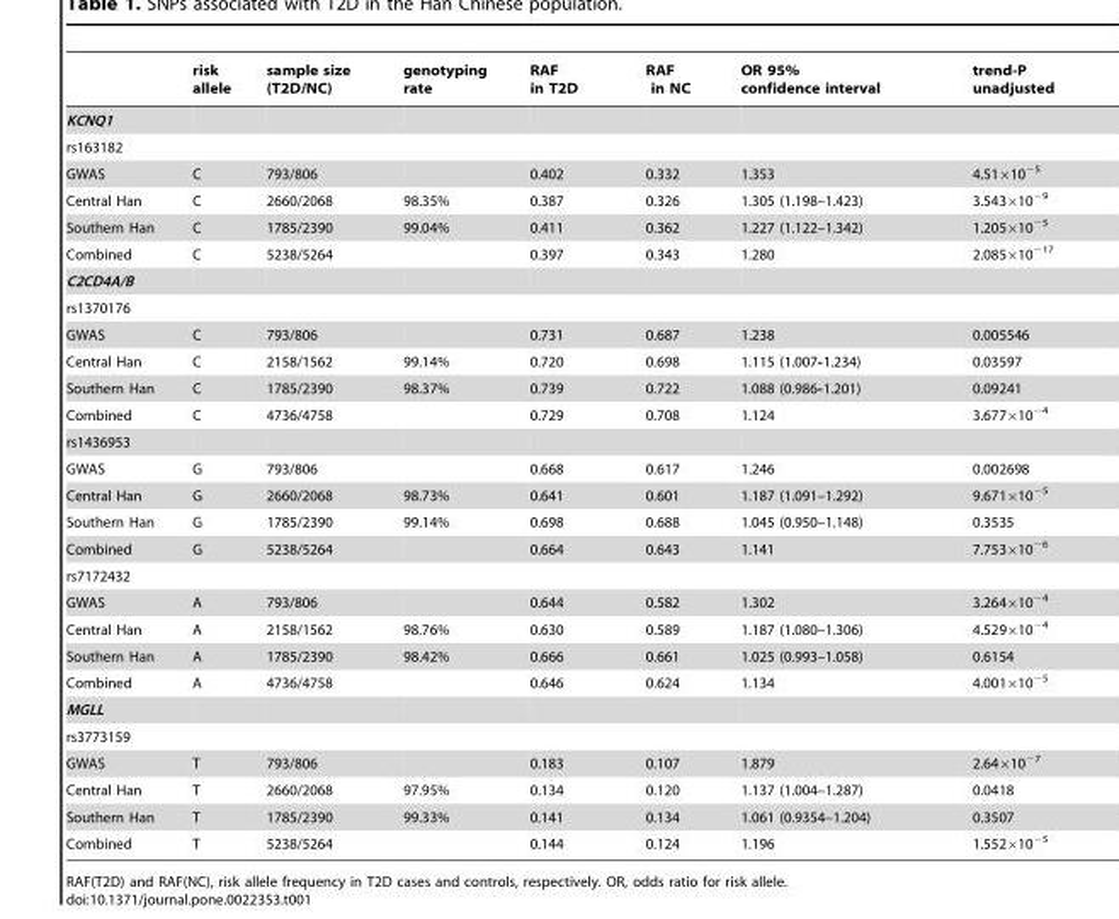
<table><thead><tr><td></td><td>risk allele</td><td>sample size (T2D/NC)</td><td>genotyping rate</td><td>RAF in T2D</td><td>RAF in NC</td><td>OR 95% confidence interval</td><td>trend-P unadjusted</td></tr></thead><tbody><tr><td colspan="8">KCNQ1</td></tr><tr><td colspan="8">rs163182</td></tr><tr><td>GWAS</td><td>C</td><td>793/806</td><td></td><td>0.402</td><td>0.332</td><td>1.353</td><td>4.51×10<sup>−5</sup></td></tr><tr><td>Central Han</td><td>C</td><td>2660/2068</td><td>98.35%</td><td>0.387</td><td>0.326</td><td>1.305 (1.198–1.423)</td><td>3.543×10<sup>−9</sup></td></tr><tr><td>Southern Han</td><td>C</td><td>1785/2390</td><td>99.04%</td><td>0.411</td><td>0.362</td><td>1.227 (1.122–1.342)</td><td>1.205×10<sup>−5</sup></td></tr><tr><td>Combined</td><td>C</td><td>5238/5264</td><td></td><td>0.397</td><td>0.343</td><td>1.280</td><td>2.085×10<sup>−17</sup></td></tr><tr><td colspan="8">C2CD4A/B</td></tr><tr><td colspan="8">rs1370176</td></tr><tr><td>GWAS</td><td>C</td><td>793/806</td><td></td><td>0.731</td><td>0.687</td><td>1.238</td><td>0.005546</td></tr><tr><td>Central Han</td><td>C</td><td>2158/1562</td><td>99.14%</td><td>0.720</td><td>0.698</td><td>1.115 (1.007-1.234)</td><td>0.03597</td></tr><tr><td>Southern Han</td><td>C</td><td>1785/2390</td><td>98.37%</td><td>0.739</td><td>0.722</td><td>1.088 (0.986-1.201)</td><td>0.09241</td></tr><tr><td>Combined</td><td>C</td><td>4736/4758</td><td></td><td>0.729</td><td>0.708</td><td>1.124</td><td>3.677×10<sup>−4</sup></td></tr><tr><td colspan="8">rs1436953</td></tr><tr><td>GWAS</td><td>G</td><td>793/806</td><td></td><td>0.668</td><td>0.617</td><td>1.246</td><td>0.002698</td></tr><tr><td>Central Han</td><td>G</td><td>2660/2068</td><td>98.73%</td><td>0.641</td><td>0.601</td><td>1.187 (1.091–1.292)</td><td>9.671×10<sup>−5</sup></td></tr><tr><td>Southern Han</td><td>G</td><td>1785/2390</td><td>99.14%</td><td>0.698</td><td>0.688</td><td>1.045 (0.950–1.148)</td><td>0.3535</td></tr><tr><td>Combined</td><td>G</td><td>5238/5264</td><td></td><td>0.664</td><td>0.643</td><td>1.141</td><td>7.753×10<sup>−6</sup></td></tr><tr><td colspan="8">rs7172432</td></tr><tr><td>GWAS</td><td>A</td><td>793/806</td><td></td><td>0.644</td><td>0.582</td><td>1.302</td><td>3.264×10<sup>−4</sup></td></tr><tr><td>Central Han</td><td>A</td><td>2158/1562</td><td>98.76%</td><td>0.630</td><td>0.589</td><td>1.187 (1.080–1.306)</td><td>4.529×10<sup>−4</sup></td></tr><tr><td>Southern Han</td><td>A</td><td>1785/2390</td><td>98.42%</td><td>0.666</td><td>0.661</td><td>1.025 (0.993–1.058)</td><td>0.6154</td></tr><tr><td>Combined</td><td>A</td><td>4736/4758</td><td></td><td>0.646</td><td>0.624</td><td>1.134</td><td>4.001×10<sup>−5</sup></td></tr><tr><td colspan="8">MGLL</td></tr><tr><td colspan="8">rs3773159</td></tr><tr><td>GWAS</td><td>T</td><td>793/806</td><td></td><td>0.183</td><td>0.107</td><td>1.879</td><td>2.64×10<sup>−7</sup></td></tr><tr><td>Central Han</td><td>T</td><td>2660/2068</td><td>97.95%</td><td>0.134</td><td>0.120</td><td>1.137 (1.004–1.287)</td><td>0.0418</td></tr><tr><td>Southern Han</td><td>T</td><td>1785/2390</td><td>99.33%</td><td>0.141</td><td>0.134</td><td>1.061 (0.9354–1.204)</td><td>0.3507</td></tr><tr><td>Combined</td><td>T</td><td>5238/5264</td><td></td><td>0.144</td><td>0.124</td><td>1.196</td><td>1.552×10<sup>−5</sup></td></tr></tbody></table>